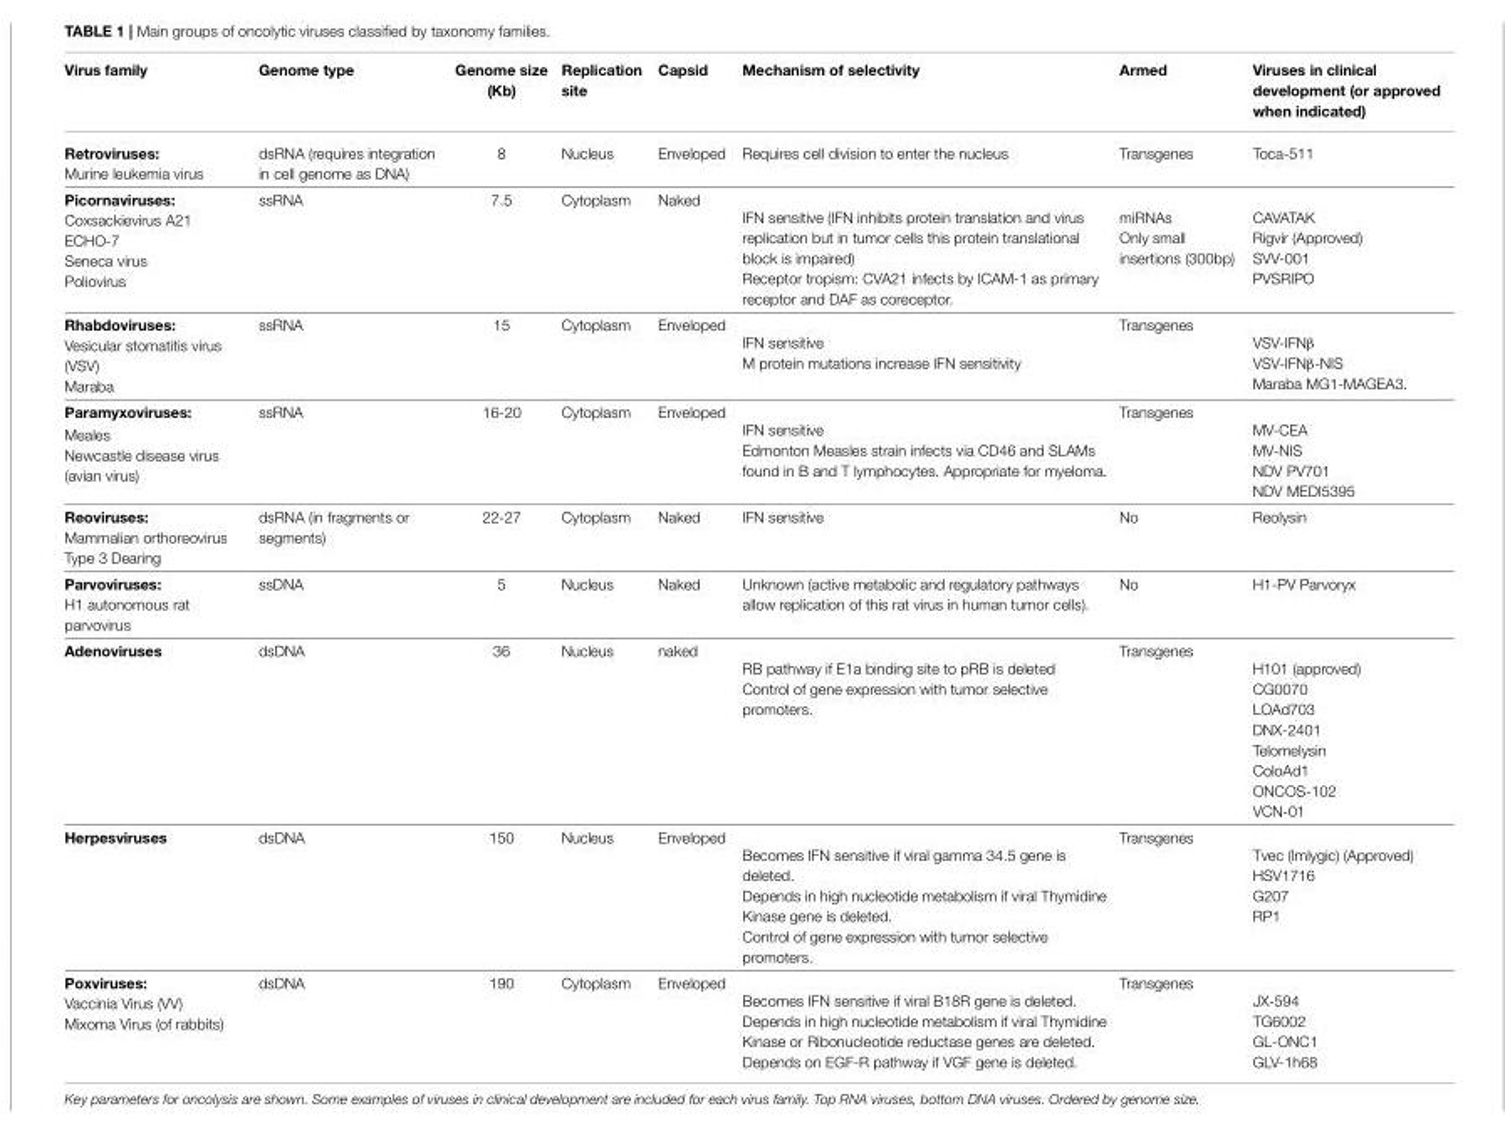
<table><thead><tr><td>Virus family</td><td>Genome type</td><td>Genome size (Kb)</td><td>Replication site</td><td>Capsid</td><td>Mechanism of selectivity</td><td>Armed</td><td>Viruses in clinical development (or approved when indicated)</td></tr></thead><tbody><tr><td>Retroviruses: Murine leukemia virus</td><td>dsRNA (requires integration in cell genome as DNA)</td><td>8</td><td>Nucleus</td><td>Enveloped</td><td>Requires cell division to enter the nucleus</td><td>Transgenes</td><td>Toca-511</td></tr><tr><td>Picornaviruses: Coxsackievirus A21 ECHO-7 Seneca virus Poliovirus</td><td>ssRNA</td><td>7.5</td><td>Cytoplasm</td><td>Naked</td><td>IFN sensitive (IFN inhibits protein translation and virus replication but in tumor cells this protein translational block is impaired) Receptor tropism: CVA21 infects by ICAM-1 as primary receptor and DAF as coreceptor.</td><td>miRNAs Only small insertions (300bp)</td><td>CAVATAK Rigvir (Approved) SVV-001 PVSRIPO</td></tr><tr><td>Rhabdoviruses: Vesicular stomatitis virus (VSV) Maraba</td><td>ssRNA</td><td>15</td><td>Cytoplasm</td><td>Enveloped</td><td>IFN sensitive M protein mutations increase IFN sensitivity</td><td>Transgenes</td><td>VSV-IFNβ VSV-IFNβ-NIS Maraba MG1-MAGEA3.</td></tr><tr><td>Paramyxoviruses: Meales Newcastle disease virus (avian virus)</td><td>ssRNA</td><td>16-20</td><td>Cytoplasm</td><td>Enveloped</td><td>IFN sensitive Edmonton Measles strain infects via CD46 and SLAMs found in B and T lymphocytes. Appropriate for myeloma.</td><td>Transgenes</td><td>MV-CEA MV-NIS NDV PV701 NDV MEDI5395</td></tr><tr><td>Reoviruses: Mammalian orthoreovirus Type 3 Dearing</td><td>dsRNA (in fragments or segments)</td><td>22-27</td><td>Cytoplasm</td><td>Naked</td><td>IFN sensitive</td><td>No</td><td>Reolysin</td></tr><tr><td>Parvoviruses: H1 autonomous rat parvovirus</td><td>ssDNA</td><td>5</td><td>Nucleus</td><td>Naked</td><td>Unknown (active metabolic and regulatory pathways allow replication of this rat virus in human tumor cells).</td><td>No</td><td>H1-PV Parvoryx</td></tr><tr><td>Adenoviruses</td><td>dsDNA</td><td>36</td><td>Nucleus</td><td>naked</td><td>RB pathway if E1a binding site to pRB is deleted Control of gene expression with tumor selective promoters.</td><td>Transgenes</td><td>H101 (approved) CG0070 LOAd703 DNX-2401 Telomelysin ColoAd1 ONCOS-102 VCN-01</td></tr><tr><td>Herpesviruses</td><td>dsDNA</td><td>150</td><td>Nucleus</td><td>Enveloped</td><td>Becomes IFN sensitive if viral gamma 34.5 gene is deleted. Depends in high nucleotide metabolism if viral Thymidine Kinase gene is deleted. Control of gene expression with tumor selective promoters.</td><td>Transgenes</td><td>Tvec (Imlygic) (Approved) HSV1716 G207 RP1</td></tr><tr><td>Poxviruses: Vaccinia Virus (VV) Mixoma Virus (of rabbits)</td><td>dsDNA</td><td>190</td><td>Cytoplasm</td><td>Enveloped</td><td>Becomes IFN sensitive if viral B18R gene is deleted. Depends in high nucleotide metabolism if viral Thymidine Kinase or Ribonucleotide reductase genes are deleted. Depends on EGF-R pathway if VGF gene is deleted.</td><td>Transgenes</td><td>JX-594 TG6002 GL-ONC1 GLV-1h68</td></tr></tbody></table>